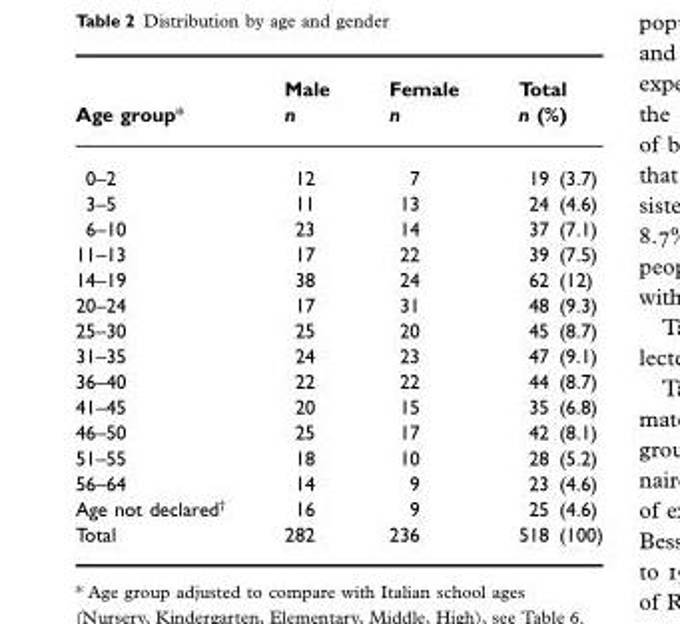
<table><thead><tr><td rowspan="2">Age group*</td><td rowspan="2">Male n</td><td rowspan="2">Female n</td><td rowspan="2">Total n (%)</td></tr><tr></tr></thead><tbody><tr><td>0–2</td><td>12</td><td>7</td><td>19 (3.7)</td></tr><tr><td>3–5</td><td>11</td><td>13</td><td>24 (4.6)</td></tr><tr><td>6–10</td><td>23</td><td>14</td><td>37 (7.1)</td></tr><tr><td>11–13</td><td>17</td><td>22</td><td>39 (7.5)</td></tr><tr><td>14–19</td><td>38</td><td>24</td><td>62 (12)</td></tr><tr><td>20–24</td><td>17</td><td>31</td><td>48 (9.3)</td></tr><tr><td>25–30</td><td>25</td><td>20</td><td>45 (8.7)</td></tr><tr><td>31–35</td><td>24</td><td>23</td><td>47 (9.1)</td></tr><tr><td>36–40</td><td>22</td><td>22</td><td>44 (8.7)</td></tr><tr><td>41–45</td><td>20</td><td>15</td><td>35 (6.8)</td></tr><tr><td>46–50</td><td>25</td><td>17</td><td>42 (8.1)</td></tr><tr><td>51–55</td><td>18</td><td>10</td><td>28 (5.2)</td></tr><tr><td>56–64</td><td>14</td><td>9</td><td>23 (4.6)</td></tr><tr><td>Age not declared†</td><td>16</td><td>9</td><td>25 (4.6)</td></tr><tr><td>Total</td><td>282</td><td>236</td><td>518 (100)</td></tr></tbody></table>